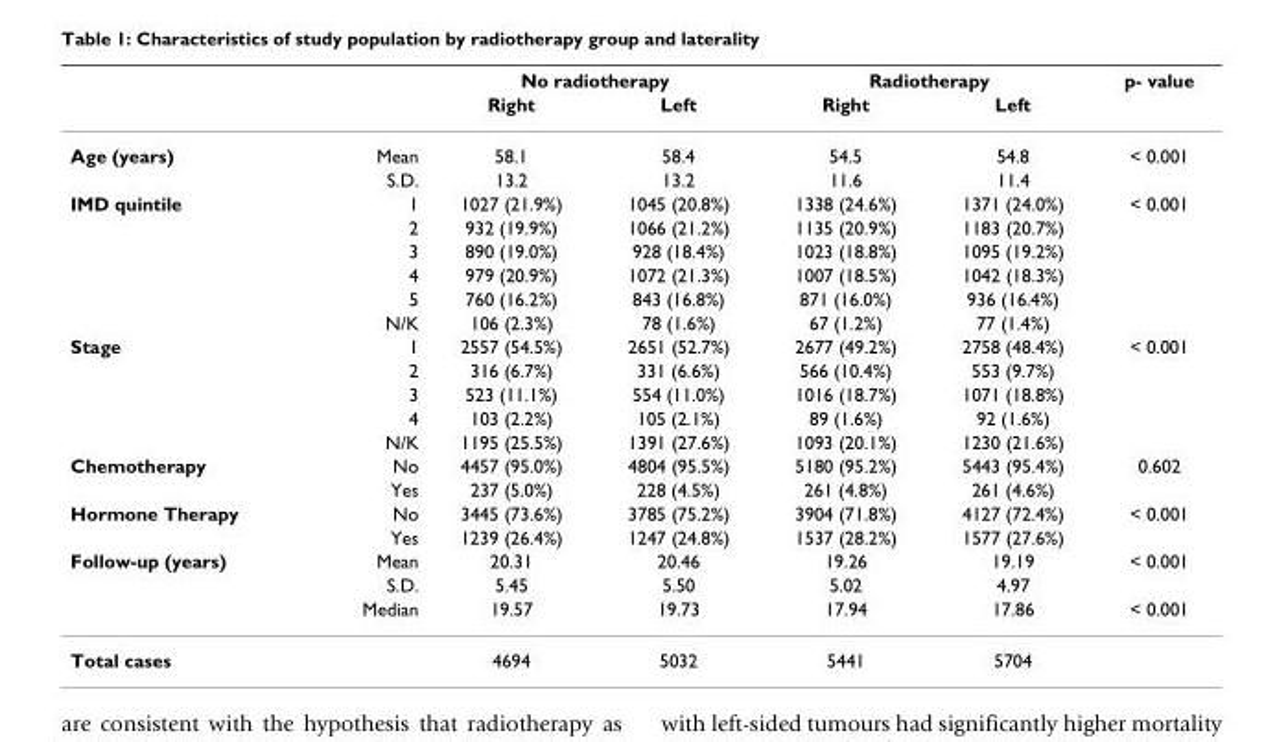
<table><thead><tr><td rowspan="2"></td><td rowspan="2"></td><td colspan="2">No radiotherapy</td><td colspan="2">Radiotherapy</td><td rowspan="2">p- value</td></tr><tr><td>Right</td><td>Left</td><td>Right</td><td>Left</td></tr></thead><tbody><tr><td rowspan="2">Age (years)</td><td>Mean</td><td>58.1</td><td>58.4</td><td>54.5</td><td>54.8</td><td>&lt; 0.001</td></tr><tr><td>S.D.</td><td>13.2</td><td>13.2</td><td>11.6</td><td>11.4</td><td></td></tr><tr><td rowspan="6">IMD quintile</td><td>1</td><td>1027 (21.9%)</td><td>1045 (20.8%)</td><td>1338 (24.6%)</td><td>1371 (24.0%)</td><td>&lt; 0.001</td></tr><tr><td>2</td><td>932 (19.9%)</td><td>1066 (21.2%)</td><td>1135 (20.9%)</td><td>1183 (20.7%)</td><td></td></tr><tr><td>3</td><td>890 (19.0%)</td><td>928 (18.4%)</td><td>1023 (18.8%)</td><td>1095 (19.2%)</td><td></td></tr><tr><td>4</td><td>979 (20.9%)</td><td>1072 (21.3%)</td><td>1007 (18.5%)</td><td>1042 (18.3%)</td><td></td></tr><tr><td>5</td><td>760 (16.2%)</td><td>843 (16.8%)</td><td>871 (16.0%)</td><td>936 (16.4%)</td><td></td></tr><tr><td>N/K</td><td>106 (2.3%)</td><td>78 (1.6%)</td><td>67 (1.2%)</td><td>77 (1.4%)</td><td></td></tr><tr><td rowspan="5">Stage</td><td>1</td><td>2557 (54.5%)</td><td>2651 (52.7%)</td><td>2677 (49.2%)</td><td>2758 (48.4%)</td><td>&lt; 0.001</td></tr><tr><td>2</td><td>316 (6.7%)</td><td>331 (6.6%)</td><td>566 (10.4%)</td><td>553 (9.7%)</td><td></td></tr><tr><td>3</td><td>523 (11.1%)</td><td>554 (11.0%)</td><td>1016 (18.7%)</td><td>1071 (18.8%)</td><td></td></tr><tr><td>4</td><td>103 (2.2%)</td><td>105 (2.1%)</td><td>89 (1.6%)</td><td>92 (1.6%)</td><td></td></tr><tr><td>N/K</td><td>1195 (25.5%)</td><td>1391 (27.6%)</td><td>1093 (20.1%)</td><td>1230 (21.6%)</td><td></td></tr><tr><td rowspan="2">Chemotherapy</td><td>No</td><td>4457 (95.0%)</td><td>4804 (95.5%)</td><td>5180 (95.2%)</td><td>5443 (95.4%)</td><td>0.602</td></tr><tr><td>Yes</td><td>237 (5.0%)</td><td>228 (4.5%)</td><td>261 (4.8%)</td><td>261 (4.6%)</td><td></td></tr><tr><td rowspan="2">Hormone Therapy</td><td>No</td><td>3445 (73.6%)</td><td>3785 (75.2%)</td><td>3904 (71.8%)</td><td>4127 (72.4%)</td><td>&lt; 0.001</td></tr><tr><td>Yes</td><td>1239 (26.4%)</td><td>1247 (24.8%)</td><td>1537 (28.2%)</td><td>1577 (27.6%)</td><td></td></tr><tr><td rowspan="3">Follow-up (years)</td><td>Mean</td><td>20.31</td><td>20.46</td><td>19.26</td><td>19.19</td><td>&lt; 0.001</td></tr><tr><td>S.D.</td><td>5.45</td><td>5.50</td><td>5.02</td><td>4.97</td><td></td></tr><tr><td>Median</td><td>19.57</td><td>19.73</td><td>17.94</td><td>17.86</td><td>&lt; 0.001</td></tr><tr><td>Total cases</td><td></td><td>4694</td><td>5032</td><td>5441</td><td>5704</td><td></td></tr></tbody></table>